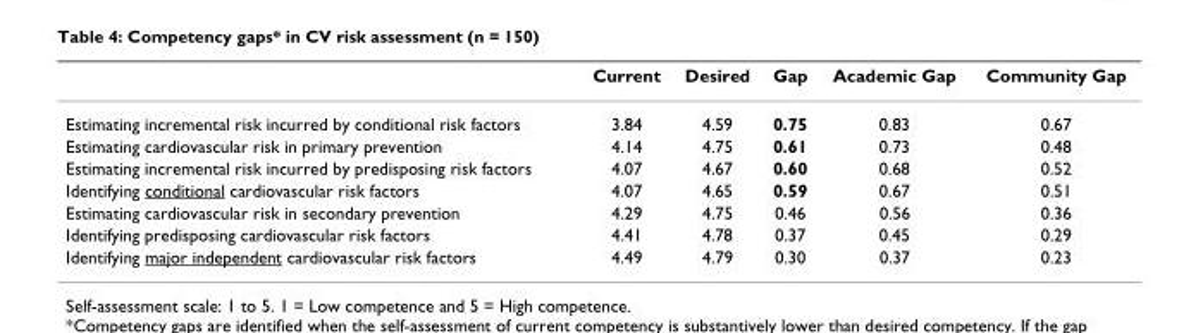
<table><thead><tr><td></td><td>Current</td><td>Desired</td><td>Gap</td><td>Academic Gap</td><td>Community Gap</td></tr></thead><tbody><tr><td>Estimating incremental risk incurred by conditional risk factors</td><td>3.84</td><td>4.59</td><td>0.75</td><td>0.83</td><td>0.67</td></tr><tr><td>Estimating cardiovascular risk in primary prevention</td><td>4.14</td><td>4.75</td><td>0.61</td><td>0.73</td><td>0.48</td></tr><tr><td>Estimating incremental risk incurred by predisposing risk factors</td><td>4.07</td><td>4.67</td><td>0.60</td><td>0.68</td><td>0.52</td></tr><tr><td>Identifying conditional cardiovascular risk factors</td><td>4.07</td><td>4.65</td><td>0.59</td><td>0.67</td><td>0.51</td></tr><tr><td>Estimating cardiovascular risk in secondary prevention</td><td>4.29</td><td>4.75</td><td>0.46</td><td>0.56</td><td>0.36</td></tr><tr><td>Identifying predisposing cardiovascular risk factors</td><td>4.41</td><td>4.78</td><td>0.37</td><td>0.45</td><td>0.29</td></tr><tr><td>Identifying major independent cardiovascular risk factors</td><td>4.49</td><td>4.79</td><td>0.30</td><td>0.37</td><td>0.23</td></tr></tbody></table>